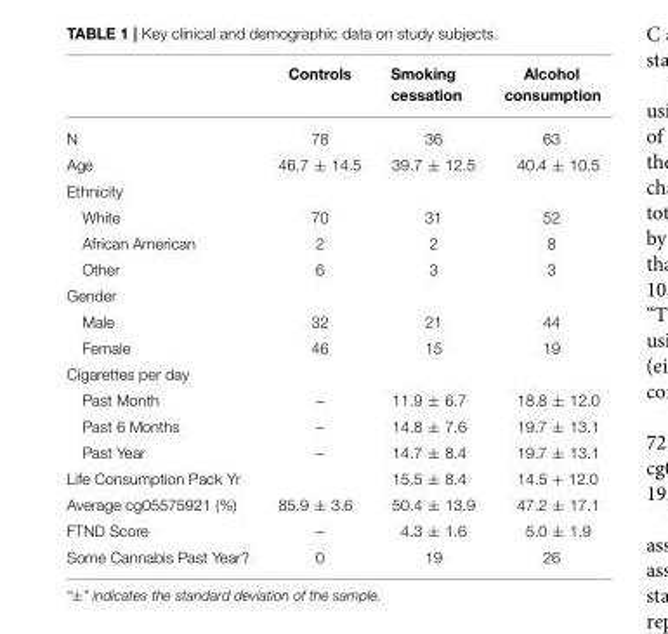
<table><thead><tr><td></td><td>Controls</td><td>Smoking cessation</td><td>Alcohol consumption</td></tr></thead><tbody><tr><td>N</td><td>78</td><td>36</td><td>63</td></tr><tr><td>Age</td><td>46.7 ± 14.5</td><td>39.7 ± 12.5</td><td>40.4 ± 10.5</td></tr><tr><td colspan="4">Ethnicity</td></tr><tr><td>White</td><td>70</td><td>31</td><td>52</td></tr><tr><td>African American</td><td>2</td><td>2</td><td>8</td></tr><tr><td>Other</td><td>6</td><td>3</td><td>3</td></tr><tr><td colspan="4">Gender</td></tr><tr><td>Male</td><td>32</td><td>21</td><td>44</td></tr><tr><td>Female</td><td>46</td><td>15</td><td>19</td></tr><tr><td colspan="4">Cigarettes per day</td></tr><tr><td>Past Month</td><td>–</td><td>11.9 ± 6.7</td><td>18.8 ± 12.0</td></tr><tr><td>Past 6 Months</td><td>–</td><td>14.8 ± 7.6</td><td>19.7 ± 13.1</td></tr><tr><td>Past Year</td><td>–</td><td>14.7 ± 8.4</td><td>19.7 ± 13.1</td></tr><tr><td>Life Consumption Pack Yr</td><td></td><td>15.5 ± 8.4</td><td>14.5 + 12.0</td></tr><tr><td>Average cg05575921 (%)</td><td>85.9 ± 3.6</td><td>50.4 ± 13.9</td><td>47.2 ± 17.1</td></tr><tr><td>FTND Score</td><td>–</td><td>4.3 ± 1.6</td><td>5.0 ± 1.9</td></tr><tr><td>Some Cannabis Past Year?</td><td>0</td><td>19</td><td>26</td></tr></tbody></table>